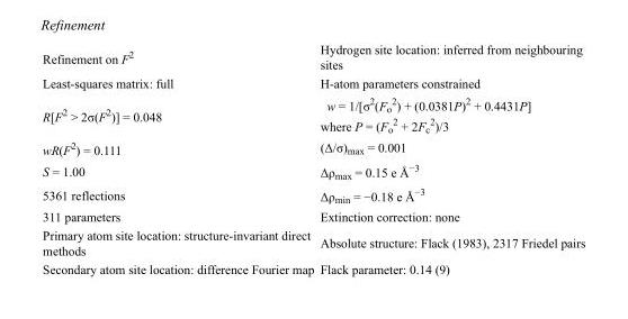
<table><tbody><tr><td>Refinement on F<sup>2</sup></td><td>Hydrogen site location: inferred from neighbouring sites</td></tr><tr><td>Least-squares matrix: full</td><td>H-atom parameters constrained</td></tr><tr><td>R[F<sup>2</sup> &gt; 2σ(F<sup>2</sup>)] = 0.048</td><td>w = 1/[σ<sup>2</sup>(F<sub>o</sub> <sup>2</sup>) + (0.0381P)<sup>2</sup> + 0.4431P] where P = (F<sub>o</sub> <sup>2</sup> + 2F<sub>c</sub> <sup>2</sup>)/3</td></tr><tr><td>wR(F<sup>2</sup>) = 0.111</td><td>(Δ/σ)<sub>max</sub> = 0.001</td></tr><tr><td>S = 1.00</td><td>Δρ<sub>max</sub> = 0.15 e Å<sup>−3</sup></td></tr><tr><td>5361 reflections</td><td>Δρ<sub>min</sub> = −0.18 e Å<sup>−3</sup></td></tr><tr><td>311 parameters</td><td>Extinction correction: none</td></tr><tr><td>Primary atom site location: structure-invariant direct methods</td><td>Absolute structure: Flack (1983), 2317 Friedel pairs</td></tr><tr><td>Secondary atom site location: difference Fourier map</td><td>Flack parameter: 0.14 (9)</td></tr></tbody></table>